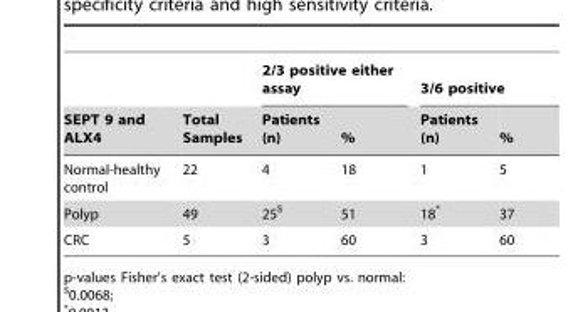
<table><thead><tr><td rowspan="2">SEPT 9 and ALX4</td><td rowspan="2">Total Samples</td><td colspan="2">2/3 positive either assay</td><td colspan="2">3/6 positive</td></tr><tr><td>Patients (n)</td><td>%</td><td>Patients (n)</td><td>%</td></tr></thead><tbody><tr><td>Normal-healthy control</td><td>22</td><td>4</td><td>18</td><td>1</td><td>5</td></tr><tr><td>Polyp</td><td>49</td><td>25$</td><td>51</td><td>18*</td><td>37</td></tr><tr><td>CRC</td><td>5</td><td>3</td><td>60</td><td>3</td><td>60</td></tr></tbody></table>